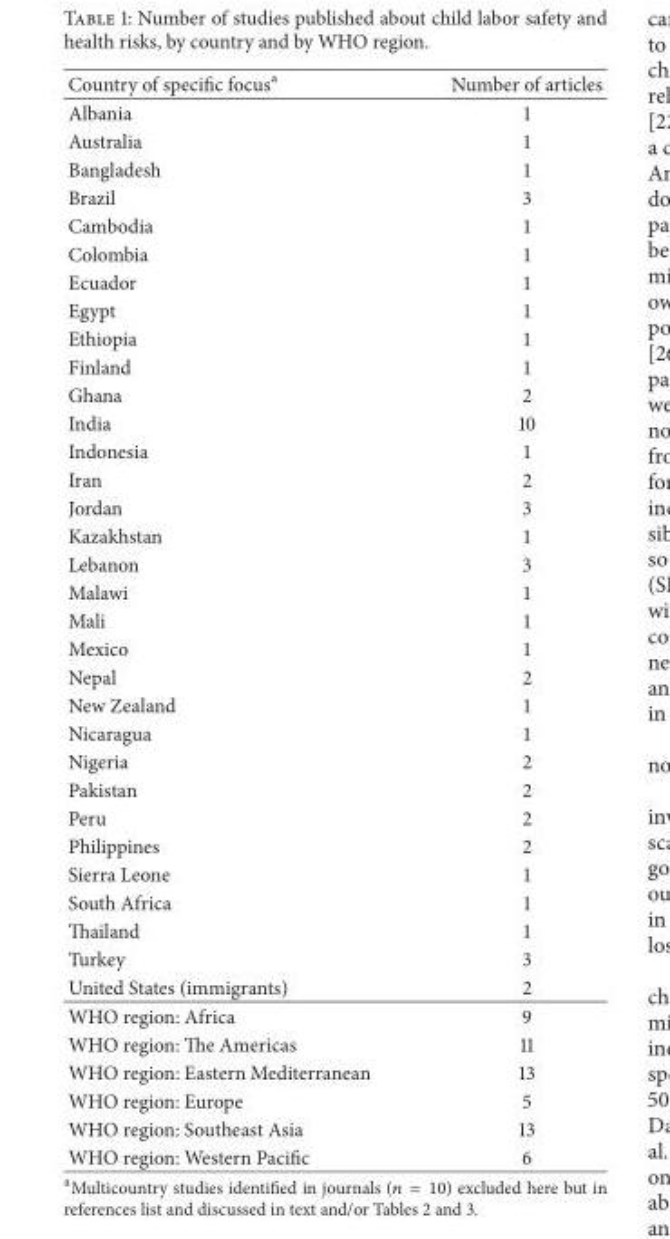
<table><thead><tr><td>Country of specific focus<sup>a</sup></td><td>Number of articles</td></tr></thead><tbody><tr><td>Albania</td><td>1</td></tr><tr><td>Australia</td><td>1</td></tr><tr><td>Bangladesh</td><td>1</td></tr><tr><td>Brazil</td><td>3</td></tr><tr><td>Cambodia</td><td>1</td></tr><tr><td>Colombia</td><td>1</td></tr><tr><td>Ecuador</td><td>1</td></tr><tr><td>Egypt</td><td>1</td></tr><tr><td>Ethiopia</td><td>1</td></tr><tr><td>Finland</td><td>1</td></tr><tr><td>Ghana</td><td>2</td></tr><tr><td>India</td><td>10</td></tr><tr><td>Indonesia</td><td>1</td></tr><tr><td>Iran</td><td>2</td></tr><tr><td>Jordan</td><td>3</td></tr><tr><td>Kazakhstan</td><td>1</td></tr><tr><td>Lebanon</td><td>3</td></tr><tr><td>Malawi</td><td>1</td></tr><tr><td>Mali</td><td>1</td></tr><tr><td>Mexico</td><td>1</td></tr><tr><td>Nepal</td><td>2</td></tr><tr><td>New Zealand</td><td>1</td></tr><tr><td>Nicaragua</td><td>1</td></tr><tr><td>Nigeria</td><td>2</td></tr><tr><td>Pakistan</td><td>2</td></tr><tr><td>Peru</td><td>2</td></tr><tr><td>Philippines</td><td>2</td></tr><tr><td>Sierra Leone</td><td>1</td></tr><tr><td>South Africa</td><td>1</td></tr><tr><td>Thailand</td><td>1</td></tr><tr><td>Turkey</td><td>3</td></tr><tr><td>United States (immigrants)</td><td>2</td></tr><tr><td>WHO region: Africa</td><td>9</td></tr><tr><td>WHO region: The Americas</td><td>11</td></tr><tr><td>WHO region: Eastern Mediterranean</td><td>13</td></tr><tr><td>WHO region: Europe</td><td>5</td></tr><tr><td>WHO region: Southeast Asia</td><td>13</td></tr><tr><td>WHO region: Western Pacific</td><td>6</td></tr></tbody></table>